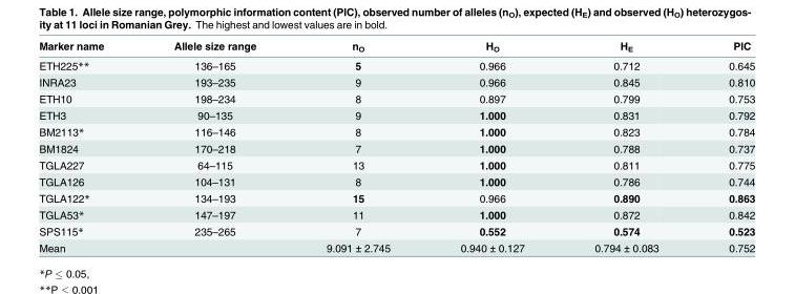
<table><thead><tr><td>Marker name</td><td>Allele size range</td><td>n<sub>O</sub></td><td>H<sub>O</sub></td><td>H<sub>E</sub></td><td>PIC</td></tr></thead><tbody><tr><td>ETH225**</td><td>136–165</td><td>5</td><td>0.966</td><td>0.712</td><td>0.645</td></tr><tr><td>INRA23</td><td>193–235</td><td>9</td><td>0.966</td><td>0.845</td><td>0.810</td></tr><tr><td>ETH10</td><td>198–234</td><td>8</td><td>0.897</td><td>0.799</td><td>0.753</td></tr><tr><td>ETH3</td><td>90–135</td><td>9</td><td>1.000</td><td>0.831</td><td>0.792</td></tr><tr><td>BM2113*</td><td>116–146</td><td>8</td><td>1.000</td><td>0.823</td><td>0.784</td></tr><tr><td>BM1824</td><td>170–218</td><td>7</td><td>1.000</td><td>0.788</td><td>0.737</td></tr><tr><td>TGLA227</td><td>64–115</td><td>13</td><td>1.000</td><td>0.811</td><td>0.775</td></tr><tr><td>TGLA126</td><td>104–131</td><td>8</td><td>1.000</td><td>0.786</td><td>0.744</td></tr><tr><td>TGLA122*</td><td>134–193</td><td>15</td><td>0.966</td><td>0.890</td><td>0.863</td></tr><tr><td>TGLA53*</td><td>147–197</td><td>11</td><td>1.000</td><td>0.872</td><td>0.842</td></tr><tr><td>SPS115*</td><td>235–265</td><td>7</td><td>0.552</td><td>0.574</td><td>0.523</td></tr><tr><td>Mean</td><td></td><td>9.091 ± 2.745</td><td>0.940 ± 0.127</td><td>0.794 ± 0.083</td><td>0.752</td></tr></tbody></table>